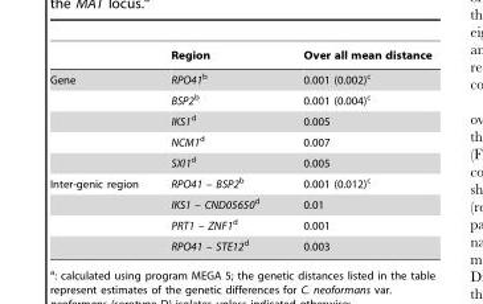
<table><thead><tr><td></td><td>Region</td><td>Over all mean distance</td></tr></thead><tbody><tr><td rowspan="5">Gene</td><td>RPO41b</td><td>0.001 (0.002)<sup>c</sup></td></tr><tr><td>BSP2b</td><td>0.001 (0.004)<sup>c</sup></td></tr><tr><td>IKS1d</td><td>0.005</td></tr><tr><td>NCM1d</td><td>0.007</td></tr><tr><td>SXI1d</td><td>0.005</td></tr><tr><td rowspan="4">Inter-genic region</td><td>RPO41 – BSP2b</td><td>0.001 (0.012)<sup>c</sup></td></tr><tr><td>IKS1 – CND05650d</td><td>0.01</td></tr><tr><td>PRT1 – ZNF1d</td><td>0.001</td></tr><tr><td>RPO41 – STE12d</td><td>0.003</td></tr></tbody></table>